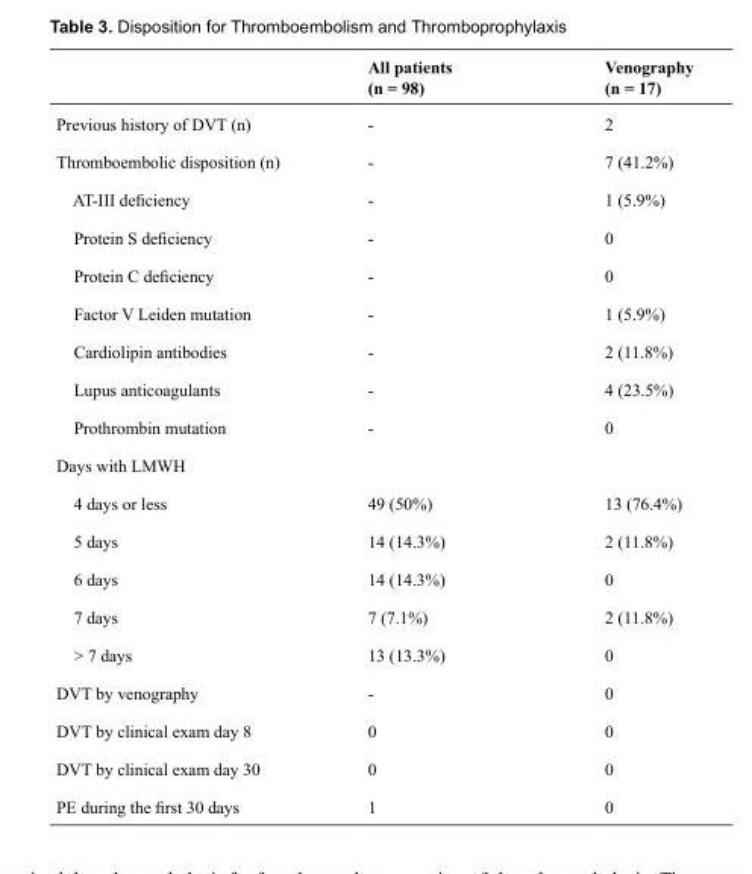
<table><thead><tr><td></td><td>All patients (n = 98)</td><td>Venography (n = 17)</td></tr></thead><tbody><tr><td>Previous history of DVT (n)</td><td>-</td><td>2</td></tr><tr><td>Thromboembolic disposition (n)</td><td>-</td><td>7 (41.2%)</td></tr><tr><td>AT-III deficiency</td><td>-</td><td>1 (5.9%)</td></tr><tr><td>Protein S deficiency</td><td>-</td><td>0</td></tr><tr><td>Protein C deficiency</td><td>-</td><td>0</td></tr><tr><td>Factor V Leiden mutation</td><td>-</td><td>1 (5.9%)</td></tr><tr><td>Cardiolipin antibodies</td><td>-</td><td>2 (11.8%)</td></tr><tr><td>Lupus anticoagulants</td><td>-</td><td>4 (23.5%)</td></tr><tr><td>Prothrombin mutation</td><td>-</td><td>0</td></tr><tr><td colspan="3">Days with LMWH</td></tr><tr><td>4 days or less</td><td>49 (50%)</td><td>13 (76.4%)</td></tr><tr><td>5 days</td><td>14 (14.3%)</td><td>2 (11.8%)</td></tr><tr><td>6 days</td><td>14 (14.3%)</td><td>0</td></tr><tr><td>7 days</td><td>7 (7.1%)</td><td>2 (11.8%)</td></tr><tr><td>&gt; 7 days</td><td>13 (13.3%)</td><td>0</td></tr><tr><td>DVT by venography</td><td>-</td><td>0</td></tr><tr><td>DVT by clinical exam day 8</td><td>0</td><td>0</td></tr><tr><td>DVT by clinical exam day 30</td><td>0</td><td>0</td></tr><tr><td>PE during the first 30 days</td><td>1</td><td>0</td></tr></tbody></table>